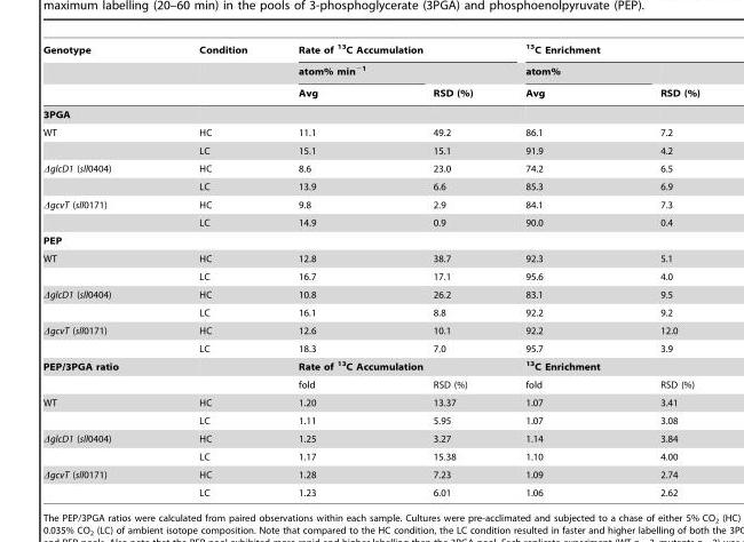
<table><thead><tr><td rowspan="3">Genotype</td><td rowspan="3">Condition</td><td colspan="2">Rate of <sup>13</sup>C Accumulation</td><td colspan="2">13C Enrichment</td></tr><tr><td rowspan="2">atom% min<sup>−1</sup> Avg</td><td rowspan="2">RSD (%)</td><td rowspan="2">atom% Avg</td><td rowspan="2">RSD (%)</td></tr><tr></tr></thead><tbody><tr><td colspan="6">3PGA</td></tr><tr><td rowspan="2">WT</td><td>HC</td><td>11.1</td><td>49.2</td><td>86.1</td><td>7.2</td></tr><tr><td>LC</td><td>15.1</td><td>15.1</td><td>91.9</td><td>4.2</td></tr><tr><td rowspan="2">ΔglcD1 (sll0404)</td><td>HC</td><td>8.6</td><td>23.0</td><td>74.2</td><td>6.5</td></tr><tr><td>LC</td><td>13.9</td><td>6.6</td><td>85.3</td><td>6.9</td></tr><tr><td rowspan="2">ΔgcvT (sll0171)</td><td>HC</td><td>9.8</td><td>2.9</td><td>84.1</td><td>7.3</td></tr><tr><td>LC</td><td>14.9</td><td>0.9</td><td>90.0</td><td>0.4</td></tr><tr><td colspan="6">PEP</td></tr><tr><td rowspan="2">WT</td><td>HC</td><td>12.8</td><td>38.7</td><td>92.3</td><td>5.1</td></tr><tr><td>LC</td><td>16.7</td><td>17.1</td><td>95.6</td><td>4.0</td></tr><tr><td rowspan="2">ΔglcD1 (sll0404)</td><td>HC</td><td>10.8</td><td>26.2</td><td>83.1</td><td>9.5</td></tr><tr><td>LC</td><td>16.1</td><td>8.8</td><td>92.2</td><td>9.2</td></tr><tr><td rowspan="2">ΔgcvT (sll0171)</td><td>HC</td><td>12.6</td><td>10.1</td><td>92.2</td><td>12.0</td></tr><tr><td>LC</td><td>18.3</td><td>7.0</td><td>95.7</td><td>3.9</td></tr><tr><td rowspan="2">PEP/3PGA ratio</td><td></td><td colspan="2">Rate of <sup>13</sup>C Accumulation</td><td colspan="2"><sup>13</sup>C Enrichment</td></tr><tr><td></td><td>fold</td><td>RSD (%)</td><td>fold</td><td>RSD (%)</td></tr><tr><td rowspan="2">WT</td><td>HC</td><td>1.20</td><td>13.37</td><td>1.07</td><td>3.41</td></tr><tr><td>LC</td><td>1.11</td><td>5.95</td><td>1.07</td><td>3.08</td></tr><tr><td rowspan="2">ΔglcD1 (sll0404)</td><td>HC</td><td>1.25</td><td>3.27</td><td>1.14</td><td>3.84</td></tr><tr><td>LC</td><td>1.17</td><td>15.38</td><td>1.10</td><td>4.00</td></tr><tr><td rowspan="2">ΔgcvT (sll0171)</td><td>HC</td><td>1.28</td><td>7.23</td><td>1.09</td><td>2.74</td></tr><tr><td>LC</td><td>1.23</td><td>6.01</td><td>1.06</td><td>2.62</td></tr></tbody></table>